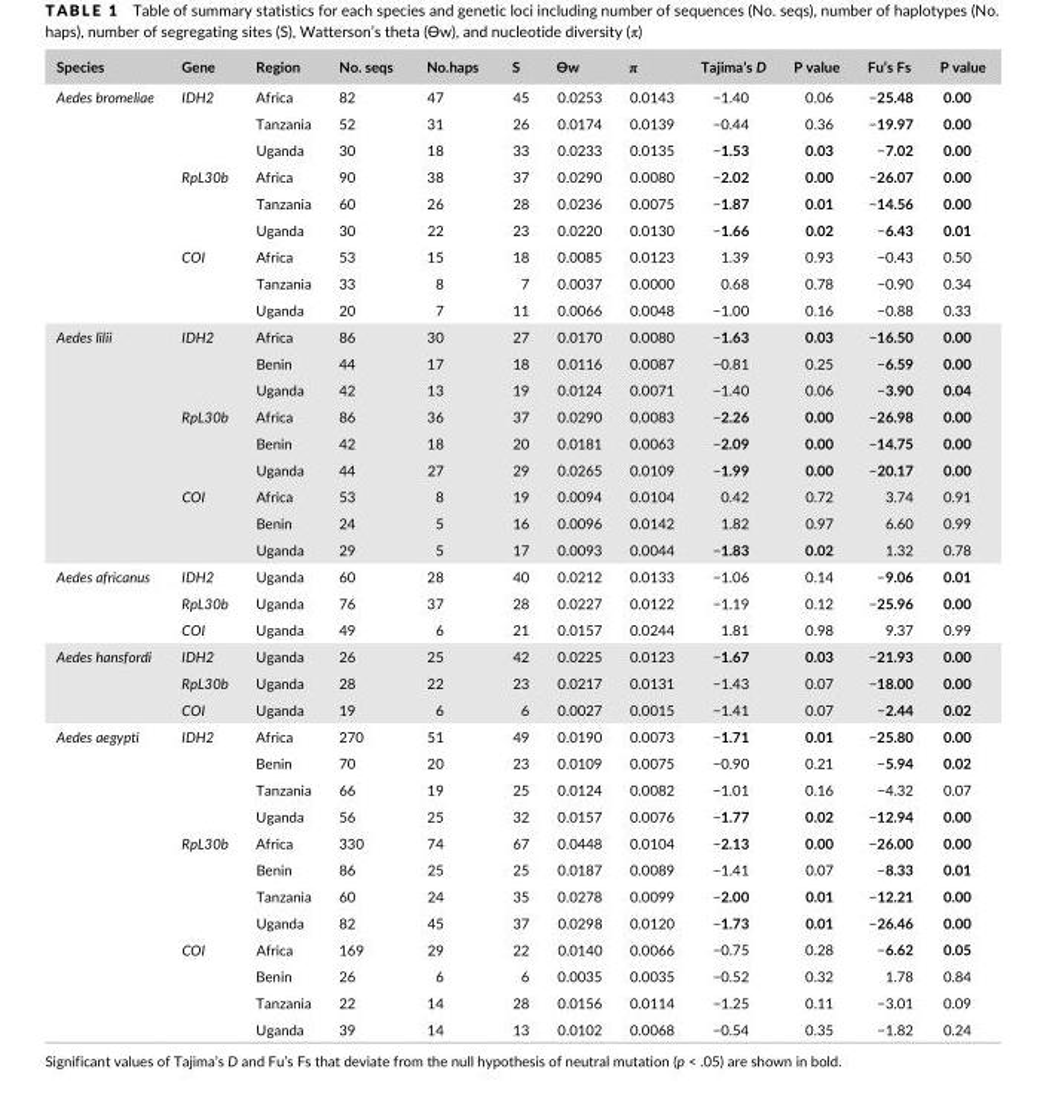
<table><thead><tr><td>Species</td><td>Gene</td><td>Region</td><td>No. seqs</td><td>No.haps</td><td>S</td><td>Ɵw</td><td>π</td><td>Tajima’s D</td><td>P value</td><td>Fu’s Fs</td><td>P value</td></tr></thead><tbody><tr><td rowspan="9">Aedes bromeliae</td><td>IDH2</td><td>Africa</td><td>82</td><td>47</td><td>45</td><td>0.0253</td><td>0.0143</td><td>−1.40</td><td>0.06</td><td>−25.48</td><td>0.00</td></tr><tr><td></td><td>Tanzania</td><td>52</td><td>31</td><td>26</td><td>0.0174</td><td>0.0139</td><td>−0.44</td><td>0.36</td><td>−19.97</td><td>0.00</td></tr><tr><td></td><td>Uganda</td><td>30</td><td>18</td><td>33</td><td>0.0233</td><td>0.0135</td><td>−1.53</td><td>0.03</td><td>−7.02</td><td>0.00</td></tr><tr><td>RpL30b</td><td>Africa</td><td>90</td><td>38</td><td>37</td><td>0.0290</td><td>0.0080</td><td>−2.02</td><td>0.00</td><td>−26.07</td><td>0.00</td></tr><tr><td></td><td>Tanzania</td><td>60</td><td>26</td><td>28</td><td>0.0236</td><td>0.0075</td><td>−1.87</td><td>0.01</td><td>−14.56</td><td>0.00</td></tr><tr><td></td><td>Uganda</td><td>30</td><td>22</td><td>23</td><td>0.0220</td><td>0.0130</td><td>−1.66</td><td>0.02</td><td>−6.43</td><td>0.01</td></tr><tr><td>COI</td><td>Africa</td><td>53</td><td>15</td><td>18</td><td>0.0085</td><td>0.0123</td><td>1.39</td><td>0.93</td><td>−0.43</td><td>0.50</td></tr><tr><td></td><td>Tanzania</td><td>33</td><td>8</td><td>7</td><td>0.0037</td><td>0.0000</td><td>0.68</td><td>0.78</td><td>−0.90</td><td>0.34</td></tr><tr><td></td><td>Uganda</td><td>20</td><td>7</td><td>11</td><td>0.0066</td><td>0.0048</td><td>−1.00</td><td>0.16</td><td>−0.88</td><td>0.33</td></tr><tr><td rowspan="9">Aedes lilii</td><td>IDH2</td><td>Africa</td><td>86</td><td>30</td><td>27</td><td>0.0170</td><td>0.0080</td><td>−1.63</td><td>0.03</td><td>−16.50</td><td>0.00</td></tr><tr><td></td><td>Benin</td><td>44</td><td>17</td><td>18</td><td>0.0116</td><td>0.0087</td><td>−0.81</td><td>0.25</td><td>−6.59</td><td>0.00</td></tr><tr><td></td><td>Uganda</td><td>42</td><td>13</td><td>19</td><td>0.0124</td><td>0.0071</td><td>−1.40</td><td>0.06</td><td>−3.90</td><td>0.04</td></tr><tr><td>RpL30b</td><td>Africa</td><td>86</td><td>36</td><td>37</td><td>0.0290</td><td>0.0083</td><td>−2.26</td><td>0.00</td><td>−26.98</td><td>0.00</td></tr><tr><td></td><td>Benin</td><td>42</td><td>18</td><td>20</td><td>0.0181</td><td>0.0063</td><td>−2.09</td><td>0.00</td><td>−14.75</td><td>0.00</td></tr><tr><td></td><td>Uganda</td><td>44</td><td>27</td><td>29</td><td>0.0265</td><td>0.0109</td><td>−1.99</td><td>0.00</td><td>−20.17</td><td>0.00</td></tr><tr><td>COI</td><td>Africa</td><td>53</td><td>8</td><td>19</td><td>0.0094</td><td>0.0104</td><td>0.42</td><td>0.72</td><td>3.74</td><td>0.91</td></tr><tr><td></td><td>Benin</td><td>24</td><td>5</td><td>16</td><td>0.0096</td><td>0.0142</td><td>1.82</td><td>0.97</td><td>6.60</td><td>0.99</td></tr><tr><td></td><td>Uganda</td><td>29</td><td>5</td><td>17</td><td>0.0093</td><td>0.0044</td><td>−1.83</td><td>0.02</td><td>1.32</td><td>0.78</td></tr><tr><td rowspan="3">Aedes africanus</td><td>IDH2</td><td>Uganda</td><td>60</td><td>28</td><td>40</td><td>0.0212</td><td>0.0133</td><td>−1.06</td><td>0.14</td><td>−9.06</td><td>0.01</td></tr><tr><td>RpL30b</td><td>Uganda</td><td>76</td><td>37</td><td>28</td><td>0.0227</td><td>0.0122</td><td>−1.19</td><td>0.12</td><td>−25.96</td><td>0.00</td></tr><tr><td>COI</td><td>Uganda</td><td>49</td><td>6</td><td>21</td><td>0.0157</td><td>0.0244</td><td>1.81</td><td>0.98</td><td>9.37</td><td>0.99</td></tr><tr><td rowspan="3">Aedes hansfordi</td><td>IDH2</td><td>Uganda</td><td>26</td><td>25</td><td>42</td><td>0.0225</td><td>0.0123</td><td>−1.67</td><td>0.03</td><td>−21.93</td><td>0.00</td></tr><tr><td>RpL30b</td><td>Uganda</td><td>28</td><td>22</td><td>23</td><td>0.0217</td><td>0.0131</td><td>−1.43</td><td>0.07</td><td>−18.00</td><td>0.00</td></tr><tr><td>COI</td><td>Uganda</td><td>19</td><td>6</td><td>6</td><td>0.0027</td><td>0.0015</td><td>−1.41</td><td>0.07</td><td>−2.44</td><td>0.02</td></tr><tr><td rowspan="12">Aedes aegypti</td><td>IDH2</td><td>Africa</td><td>270</td><td>51</td><td>49</td><td>0.0190</td><td>0.0073</td><td>−1.71</td><td>0.01</td><td>−25.80</td><td>0.00</td></tr><tr><td></td><td>Benin</td><td>70</td><td>20</td><td>23</td><td>0.0109</td><td>0.0075</td><td>−0.90</td><td>0.21</td><td>−5.94</td><td>0.02</td></tr><tr><td></td><td>Tanzania</td><td>66</td><td>19</td><td>25</td><td>0.0124</td><td>0.0082</td><td>−1.01</td><td>0.16</td><td>−4.32</td><td>0.07</td></tr><tr><td></td><td>Uganda</td><td>56</td><td>25</td><td>32</td><td>0.0157</td><td>0.0076</td><td>−1.77</td><td>0.02</td><td>−12.94</td><td>0.00</td></tr><tr><td>RpL30b</td><td>Africa</td><td>330</td><td>74</td><td>67</td><td>0.0448</td><td>0.0104</td><td>−2.13</td><td>0.00</td><td>−26.00</td><td>0.00</td></tr><tr><td></td><td>Benin</td><td>86</td><td>25</td><td>25</td><td>0.0187</td><td>0.0089</td><td>−1.41</td><td>0.07</td><td>−8.33</td><td>0.01</td></tr><tr><td></td><td>Tanzania</td><td>60</td><td>24</td><td>35</td><td>0.0278</td><td>0.0099</td><td>−2.00</td><td>0.01</td><td>−12.21</td><td>0.00</td></tr><tr><td></td><td>Uganda</td><td>82</td><td>45</td><td>37</td><td>0.0298</td><td>0.0120</td><td>−1.73</td><td>0.01</td><td>−26.46</td><td>0.00</td></tr><tr><td>COI</td><td>Africa</td><td>169</td><td>29</td><td>22</td><td>0.0140</td><td>0.0066</td><td>−0.75</td><td>0.28</td><td>−6.62</td><td>0.05</td></tr><tr><td></td><td>Benin</td><td>26</td><td>6</td><td>6</td><td>0.0035</td><td>0.0035</td><td>−0.52</td><td>0.32</td><td>1.78</td><td>0.84</td></tr><tr><td></td><td>Tanzania</td><td>22</td><td>14</td><td>28</td><td>0.0156</td><td>0.0114</td><td>−1.25</td><td>0.11</td><td>−3.01</td><td>0.09</td></tr><tr><td></td><td>Uganda</td><td>39</td><td>14</td><td>13</td><td>0.0102</td><td>0.0068</td><td>−0.54</td><td>0.35</td><td>−1.82</td><td>0.24</td></tr></tbody></table>